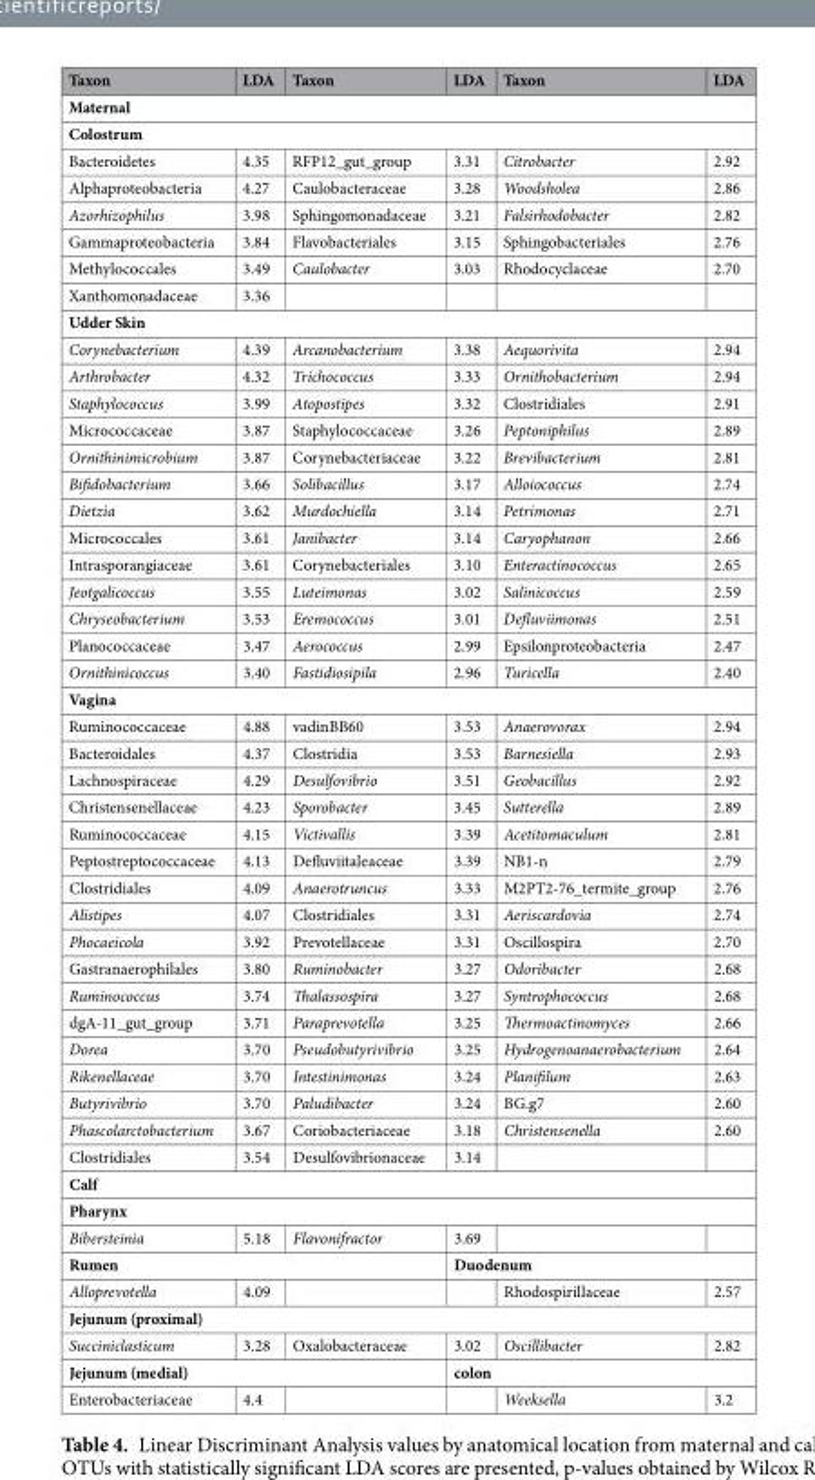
<table><thead><tr><td>Taxon</td><td>LDA</td><td>Taxon</td><td>LDA</td><td>Taxon</td><td>LDA</td></tr></thead><tbody><tr><td colspan="6">Maternal</td></tr><tr><td colspan="6">Colostrum</td></tr><tr><td>Bacteroidetes</td><td>4.35</td><td>RFP12_gut_group</td><td>3.31</td><td>Citrobacter</td><td>2.92</td></tr><tr><td>Alphaproteobacteria</td><td>4.27</td><td>Caulobacteraceae</td><td>3.28</td><td>Woodsholea</td><td>2.86</td></tr><tr><td>Azorhizophilus</td><td>3.98</td><td>Sphingomonadaceae</td><td>3.21</td><td>Falsirhodobacter</td><td>2.82</td></tr><tr><td>Gammaproteobacteria</td><td>3.84</td><td>Flavobacteriales</td><td>3.15</td><td>Sphingobacteriales</td><td>2.76</td></tr><tr><td>Methylococcales</td><td>3.49</td><td>Caulobacter</td><td>3.03</td><td>Rhodocyclaceae</td><td>2.70</td></tr><tr><td>Xanthomonadaceae</td><td>3.36</td><td></td><td></td><td></td><td></td></tr><tr><td colspan="6">Udder Skin</td></tr><tr><td>Corynebacterium</td><td>4.39</td><td>Arcanobacterium</td><td>3.38</td><td>Aequorivita</td><td>2.94</td></tr><tr><td>Arthrobacter</td><td>4.32</td><td>Trichococcus</td><td>3.33</td><td>Ornithobacterium</td><td>2.94</td></tr><tr><td>Staphylococcus</td><td>3.99</td><td>Atopostipes</td><td>3.32</td><td>Clostridiales</td><td>2.91</td></tr><tr><td>Micrococcaceae</td><td>3.87</td><td>Staphylococcaceae</td><td>3.26</td><td>Peptoniphilus</td><td>2.89</td></tr><tr><td>Ornithinimicrobium</td><td>3.87</td><td>Corynebacteriaceae</td><td>3.22</td><td>Brevibacterium</td><td>2.81</td></tr><tr><td>Bifidobacterium</td><td>3.66</td><td>Solibacillus</td><td>3.17</td><td>Alloiococcus</td><td>2.74</td></tr><tr><td>Dietzia</td><td>3.62</td><td>Murdochiella</td><td>3.14</td><td>Petrimonas</td><td>2.71</td></tr><tr><td>Micrococcales</td><td>3.61</td><td>Janibacter</td><td>3.14</td><td>Caryophanon</td><td>2.66</td></tr><tr><td>Intrasporangiaceae</td><td>3.61</td><td>Corynebacteriales</td><td>3.10</td><td>Enteractinococcus</td><td>2.65</td></tr><tr><td>Jeotgalicoccus</td><td>3.55</td><td>Luteimonas</td><td>3.02</td><td>Salinicoccus</td><td>2.59</td></tr><tr><td>Chryseobacterium</td><td>3.53</td><td>Eremococcus</td><td>3.01</td><td>Defluviimonas</td><td>2.51</td></tr><tr><td>Planococcaceae</td><td>3.47</td><td>Aerococcus</td><td>2.99</td><td>Epsilonproteobacteria</td><td>2.47</td></tr><tr><td>Ornithinicoccus</td><td>3.40</td><td>Fastidiosipila</td><td>2.96</td><td>Turicella</td><td>2.40</td></tr><tr><td colspan="6">Vagina</td></tr><tr><td>Ruminococcaceae</td><td>4.88</td><td>vadinBB60</td><td>3.53</td><td>Anaerovorax</td><td>2.94</td></tr><tr><td>Bacteroidales</td><td>4.37</td><td>Clostridia</td><td>3.53</td><td>Barnesiella</td><td>2.93</td></tr><tr><td>Lachnospiraceae</td><td>4.29</td><td>Desulfovibrio</td><td>3.51</td><td>Geobacillus</td><td>2.92</td></tr><tr><td>Christensenellaceae</td><td>4.23</td><td>Sporobacter</td><td>3.45</td><td>Sutterella</td><td>2.89</td></tr><tr><td>Ruminococcaceae</td><td>4.15</td><td>Victivallis</td><td>3.39</td><td>Acetitomaculum</td><td>2.81</td></tr><tr><td>Peptostreptococcaceae</td><td>4.13</td><td>Defluviitaleaceae</td><td>3.39</td><td>NB1-n</td><td>2.79</td></tr><tr><td>Clostridiales</td><td>4.09</td><td>Anaerotruncus</td><td>3.33</td><td>M2PT2-76_termite_group</td><td>2.76</td></tr><tr><td>Alistipes</td><td>4.07</td><td>Clostridiales</td><td>3.31</td><td>Aeriscardovia</td><td>2.74</td></tr><tr><td>Phocaeicola</td><td>3.92</td><td>Prevotellaceae</td><td>3.31</td><td>Oscillospira</td><td>2.70</td></tr><tr><td>Gastranaerophilales</td><td>3.80</td><td>Ruminobacter</td><td>3.27</td><td>Odoribacter</td><td>2.68</td></tr><tr><td>Ruminococcus</td><td>3.74</td><td>Thalassospira</td><td>3.27</td><td>Syntrophococcus</td><td>2.68</td></tr><tr><td>dgA-11_gut_group</td><td>3.71</td><td>Paraprevotella</td><td>3.25</td><td>Thermoactinomyces</td><td>2.66</td></tr><tr><td>Dorea</td><td>3.70</td><td>Pseudobutyrivibrio</td><td>3.25</td><td>Hydrogenoanaerobacterium</td><td>2.64</td></tr><tr><td>Rikenellaceae</td><td>3.70</td><td>Intestinimonas</td><td>3.24</td><td>Planifilum</td><td>2.63</td></tr><tr><td>Butyrivibrio</td><td>3.70</td><td>Paludibacter</td><td>3.24</td><td>BG.g7</td><td>2.60</td></tr><tr><td>Phascolarctobacterium</td><td>3.67</td><td>Coriobacteriaceae</td><td>3.18</td><td>Christensenella</td><td>2.60</td></tr><tr><td>Clostridiales</td><td>3.54</td><td>Desulfovibrionaceae</td><td>3.14</td><td></td><td></td></tr><tr><td colspan="6">Calf</td></tr><tr><td colspan="6">Pharynx</td></tr><tr><td>Bibersteinia</td><td>5.18</td><td>Flavonifractor</td><td>3.69</td><td></td><td></td></tr><tr><td colspan="3">Rumen</td><td colspan="3">Duodenum</td></tr><tr><td>Alloprevotella</td><td>4.09</td><td></td><td></td><td>Rhodospirillaceae</td><td>2.57</td></tr><tr><td colspan="6">Jejunum (proximal)</td></tr><tr><td>Succiniclasticum</td><td>3.28</td><td>Oxalobacteraceae</td><td>3.02</td><td>Oscillibacter</td><td>2.82</td></tr><tr><td colspan="3">Jejunum (medial)</td><td colspan="3">colon</td></tr><tr><td>Enterobacteriaceae</td><td>4.4</td><td></td><td></td><td>Weeksella</td><td>3.2</td></tr></tbody></table>